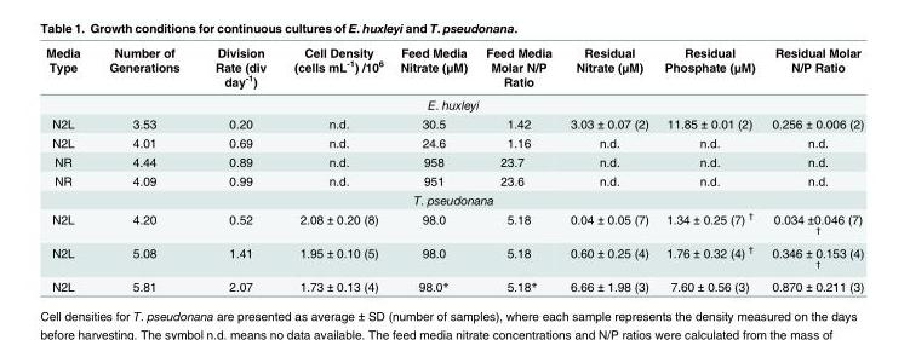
<table><thead><tr><td>Media Type</td><td>Number of Generations</td><td>Division Rate (div day<sup>-1</sup>)</td><td>Cell Density (cells mL<sup>-1</sup>) /10<sup>6</sup></td><td>Feed Media Nitrate (μM)</td><td>Feed Media Molar N/P Ratio</td><td>Residual Nitrate (μM)</td><td>Residual Phosphate (μM)</td><td>Residual Molar N/P Ratio</td></tr></thead><tbody><tr><td colspan="9">E. huxleyi</td></tr><tr><td>N2L</td><td>3.53</td><td>0.20</td><td>n.d.</td><td>30.5</td><td>1.42</td><td>3.03 ± 0.07 (2)</td><td>11.85 ± 0.01 (2)</td><td>0.256 ± 0.006 (2)</td></tr><tr><td>N2L</td><td>4.01</td><td>0.69</td><td>n.d.</td><td>24.6</td><td>1.16</td><td>n.d.</td><td>n.d.</td><td>n.d.</td></tr><tr><td>NR</td><td>4.44</td><td>0.89</td><td>n.d.</td><td>958</td><td>23.7</td><td>n.d.</td><td>n.d.</td><td>n.d.</td></tr><tr><td>NR</td><td>4.09</td><td>0.99</td><td>n.d.</td><td>951</td><td>23.6</td><td>n.d.</td><td>n.d.</td><td>n.d.</td></tr><tr><td colspan="9">T. pseudonana</td></tr><tr><td>N2L</td><td>4.20</td><td>0.52</td><td>2.08 ± 0.20 (8)</td><td>98.0</td><td>5.18</td><td>0.04 ± 0.05 (7)</td><td>1.34 ± 0.25 (7) <sup>†</sup></td><td>0.034 ±0.046 (7) <sup>†</sup></td></tr><tr><td>N2L</td><td>5.08</td><td>1.41</td><td>1.95 ± 0.10 (5)</td><td>98.0</td><td>5.18</td><td>0.60 ± 0.25 (4)</td><td>1.76 ± 0.32 (4) <sup>†</sup></td><td>0.346 ± 0.153 (4) <sup>†</sup></td></tr><tr><td>N2L</td><td>5.81</td><td>2.07</td><td>1.73 ± 0.13 (4)</td><td>98.0*</td><td>5.18*</td><td>6.66 ± 1.98 (3)</td><td>7.60 ± 0.56 (3)</td><td>0.870 ± 0.211 (3)</td></tr></tbody></table>